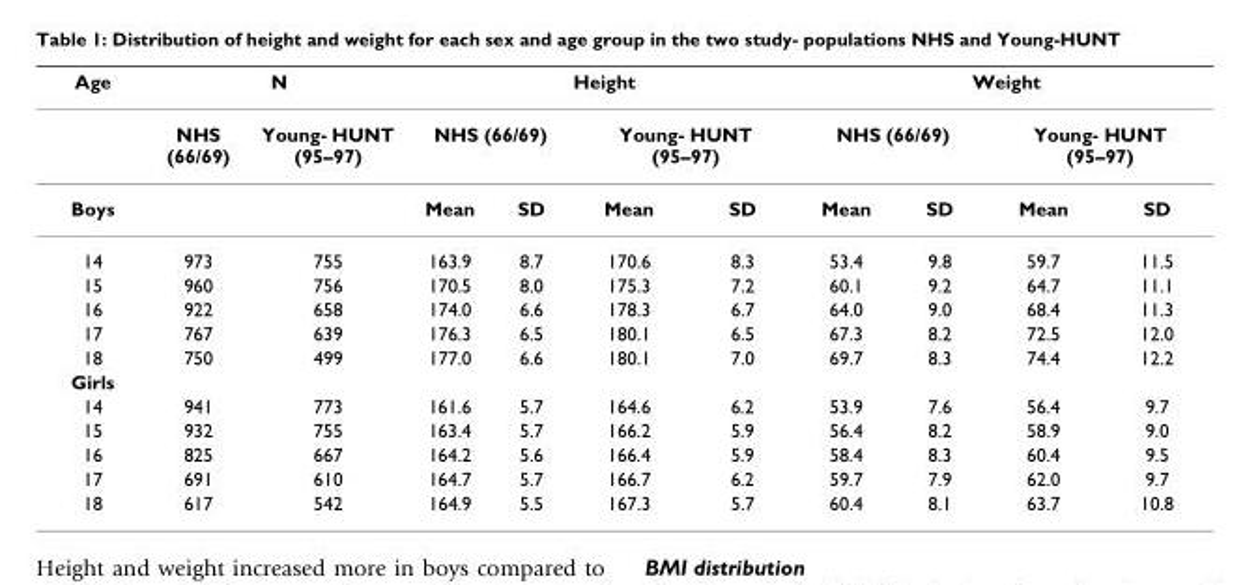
<table><thead><tr><td rowspan="3">Age Boys</td><td colspan="2">N</td><td colspan="4">Height</td><td colspan="4">Weight</td></tr><tr><td rowspan="2">NHS (66/69)</td><td rowspan="2">Young- HUNT (95–97)</td><td colspan="2">NHS (66/69)</td><td colspan="2">Young- HUNT (95–97)</td><td colspan="2">NHS (66/69)</td><td colspan="2">Young- HUNT (95–97)</td></tr><tr><td>Mean</td><td>SD</td><td>Mean</td><td>SD</td><td>Mean</td><td>SD</td><td>Mean</td><td>SD</td></tr></thead><tbody><tr><td>14</td><td>973</td><td>755</td><td>163.9</td><td>8.7</td><td>170.6</td><td>8.3</td><td>53.4</td><td>9.8</td><td>59.7</td><td>11.5</td></tr><tr><td>15</td><td>960</td><td>756</td><td>170.5</td><td>8.0</td><td>175.3</td><td>7.2</td><td>60.1</td><td>9.2</td><td>64.7</td><td>11.1</td></tr><tr><td>16</td><td>922</td><td>658</td><td>174.0</td><td>6.6</td><td>178.3</td><td>6.7</td><td>64.0</td><td>9.0</td><td>68.4</td><td>11.3</td></tr><tr><td>17</td><td>767</td><td>639</td><td>176.3</td><td>6.5</td><td>180.1</td><td>6.5</td><td>67.3</td><td>8.2</td><td>72.5</td><td>12.0</td></tr><tr><td>18</td><td>750</td><td>499</td><td>177.0</td><td>6.6</td><td>180.1</td><td>7.0</td><td>69.7</td><td>8.3</td><td>74.4</td><td>12.2</td></tr><tr><td colspan="11">Girls</td></tr><tr><td>14</td><td>941</td><td>773</td><td>161.6</td><td>5.7</td><td>164.6</td><td>6.2</td><td>53.9</td><td>7.6</td><td>56.4</td><td>9.7</td></tr><tr><td>15</td><td>932</td><td>755</td><td>163.4</td><td>5.7</td><td>166.2</td><td>5.9</td><td>56.4</td><td>8.2</td><td>58.9</td><td>9.0</td></tr><tr><td>16</td><td>825</td><td>667</td><td>164.2</td><td>5.6</td><td>166.4</td><td>5.9</td><td>58.4</td><td>8.3</td><td>60.4</td><td>9.5</td></tr><tr><td>17</td><td>691</td><td>610</td><td>164.7</td><td>5.7</td><td>166.7</td><td>6.2</td><td>59.7</td><td>7.9</td><td>62.0</td><td>9.7</td></tr><tr><td>18</td><td>617</td><td>542</td><td>164.9</td><td>5.5</td><td>167.3</td><td>5.7</td><td>60.4</td><td>8.1</td><td>63.7</td><td>10.8</td></tr></tbody></table>